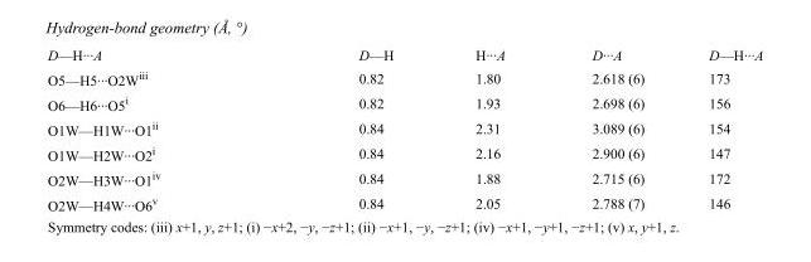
<table><tbody><tr><td>D—H···A</td><td>D—H</td><td>H···A</td><td>D···A</td><td>D—H···A</td></tr><tr><td>O5—H5···O2W<sup>iii</sup></td><td>0.82</td><td>1.80</td><td>2.618 (6)</td><td>173</td></tr><tr><td>O6—H6···O5<sup>i</sup></td><td>0.82</td><td>1.93</td><td>2.698 (6)</td><td>156</td></tr><tr><td>O1W—H1W···O1<sup>ii</sup></td><td>0.84</td><td>2.31</td><td>3.089 (6)</td><td>154</td></tr><tr><td>O1W—H2W···O2<sup>i</sup></td><td>0.84</td><td>2.16</td><td>2.900 (6)</td><td>147</td></tr><tr><td>O2W—H3W···O1<sup>iv</sup></td><td>0.84</td><td>1.88</td><td>2.715 (6)</td><td>172</td></tr><tr><td>O2W—H4W···O6<sup>v</sup></td><td>0.84</td><td>2.05</td><td>2.788 (7)</td><td>146</td></tr></tbody></table>